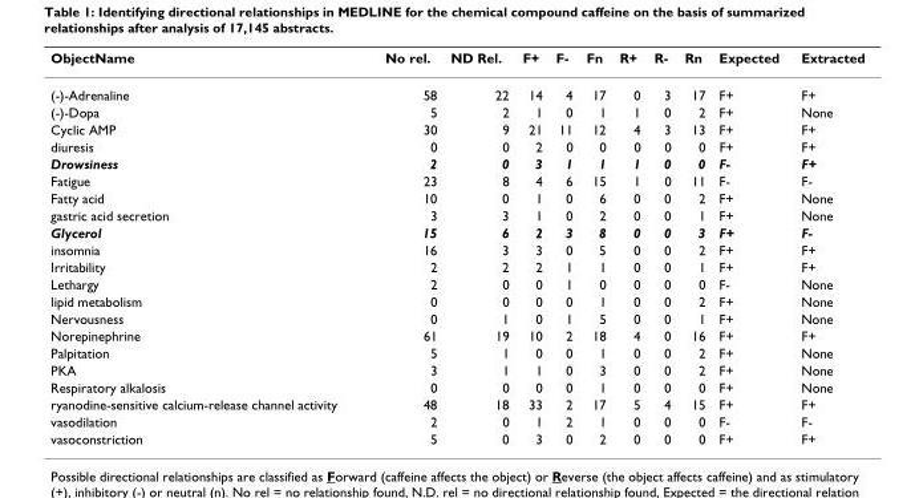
<table><thead><tr><td>ObjectName</td><td>No rel.</td><td>ND Rel.</td><td>F+</td><td>F-</td><td>Fn</td><td>R+</td><td>R-</td><td>Rn</td><td>Expected</td><td>Extracted</td></tr></thead><tbody><tr><td>(-)-Adrenaline</td><td>58</td><td>22</td><td>14</td><td>4</td><td>17</td><td>0</td><td>3</td><td>17</td><td>F+</td><td>F+</td></tr><tr><td>(-)-Dopa</td><td>5</td><td>2</td><td>1</td><td>0</td><td>1</td><td>1</td><td>0</td><td>2</td><td>F+</td><td>None</td></tr><tr><td>Cyclic AMP</td><td>30</td><td>9</td><td>21</td><td>11</td><td>12</td><td>4</td><td>3</td><td>13</td><td>F+</td><td>F+</td></tr><tr><td>diuresis</td><td>0</td><td>0</td><td>2</td><td>0</td><td>0</td><td>0</td><td>0</td><td>0</td><td>F+</td><td>F+</td></tr><tr><td>Drowsiness</td><td>2</td><td>0</td><td>3</td><td>1</td><td>1</td><td>1</td><td>0</td><td>0</td><td>F-</td><td>F+</td></tr><tr><td>Fatigue</td><td>23</td><td>8</td><td>4</td><td>6</td><td>15</td><td>1</td><td>0</td><td>11</td><td>F-</td><td>F-</td></tr><tr><td>Fatty acid</td><td>10</td><td>0</td><td>1</td><td>0</td><td>6</td><td>0</td><td>0</td><td>2</td><td>F+</td><td>None</td></tr><tr><td>gastric acid secretion</td><td>3</td><td>3</td><td>1</td><td>0</td><td>2</td><td>0</td><td>0</td><td>1</td><td>F+</td><td>None</td></tr><tr><td>Glycerol</td><td>15</td><td>6</td><td>2</td><td>3</td><td>8</td><td>0</td><td>0</td><td>3</td><td>F+</td><td>F-</td></tr><tr><td>insomnia</td><td>16</td><td>3</td><td>3</td><td>0</td><td>5</td><td>0</td><td>0</td><td>2</td><td>F+</td><td>F+</td></tr><tr><td>Irritability</td><td>2</td><td>2</td><td>2</td><td>1</td><td>1</td><td>0</td><td>0</td><td>1</td><td>F+</td><td>F+</td></tr><tr><td>Lethargy</td><td>2</td><td>0</td><td>0</td><td>1</td><td>0</td><td>0</td><td>0</td><td>0</td><td>F-</td><td>None</td></tr><tr><td>lipid metabolism</td><td>0</td><td>0</td><td>0</td><td>0</td><td>1</td><td>0</td><td>0</td><td>2</td><td>F+</td><td>None</td></tr><tr><td>Nervousness</td><td>0</td><td>1</td><td>0</td><td>1</td><td>5</td><td>0</td><td>0</td><td>1</td><td>F+</td><td>None</td></tr><tr><td>Norepinephrine</td><td>61</td><td>19</td><td>10</td><td>2</td><td>18</td><td>4</td><td>0</td><td>16</td><td>F+</td><td>F+</td></tr><tr><td>Palpitation</td><td>5</td><td>1</td><td>0</td><td>0</td><td>1</td><td>0</td><td>0</td><td>2</td><td>F+</td><td>None</td></tr><tr><td>PKA</td><td>3</td><td>1</td><td>1</td><td>0</td><td>3</td><td>0</td><td>0</td><td>2</td><td>F+</td><td>None</td></tr><tr><td>Respiratory alkalosis</td><td>0</td><td>0</td><td>0</td><td>0</td><td>1</td><td>0</td><td>0</td><td>0</td><td>F+</td><td>None</td></tr><tr><td>ryanodine-sensitive calcium-release channel activity</td><td>48</td><td>18</td><td>33</td><td>2</td><td>17</td><td>5</td><td>4</td><td>15</td><td>F+</td><td>F+</td></tr><tr><td>vasodilation</td><td>2</td><td>0</td><td>1</td><td>2</td><td>1</td><td>0</td><td>0</td><td>0</td><td>F-</td><td>F-</td></tr><tr><td>vasoconstriction</td><td>5</td><td>0</td><td>3</td><td>0</td><td>2</td><td>0</td><td>0</td><td>0</td><td>F+</td><td>F+</td></tr></tbody></table>